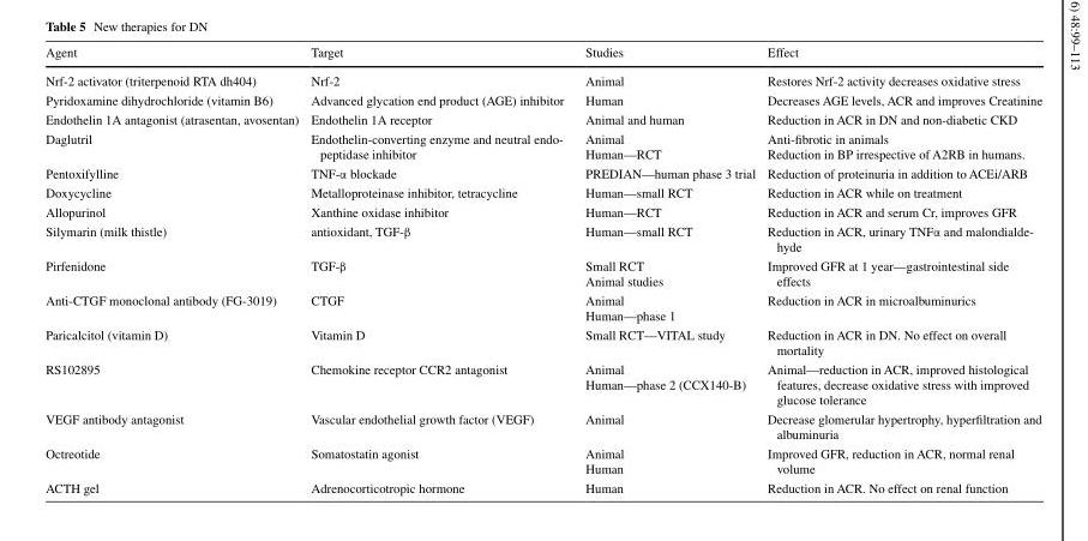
<table><thead><tr><td>Agent</td><td>Target</td><td>Studies</td><td>Effect</td></tr></thead><tbody><tr><td>Nrf-2 activator (triterpenoid RTA dh404)</td><td>Nrf-2</td><td>Animal</td><td>Restores Nrf-2 activity decreases oxidative stress</td></tr><tr><td>Pyridoxamine dihydrochloride (vitamin B6)</td><td>Advanced glycation end product (AGE) inhibitor</td><td>Human</td><td>Decreases AGE levels, ACR and improves Creatinine</td></tr><tr><td>Endothelin 1A antagonist (atrasentan, avosentan)</td><td>Endothelin 1A receptor</td><td>Animal and human</td><td>Reduction in ACR in DN and non-diabetic CKD</td></tr><tr><td>Daglutril</td><td>Endothelin-converting enzyme and neutral endo- peptidase inhibitor</td><td>Animal Human—RCT</td><td>Anti-fibrotic in animals Reduction in BP irrespective of A2RB in humans.</td></tr><tr><td>Pentoxifylline</td><td>TNF-α blockade</td><td>PREDIAN—human phase 3 trial</td><td>Reduction of proteinuria in addition to ACEi/ARB</td></tr><tr><td>Doxycycline</td><td>Metalloproteinase inhibitor, tetracycline</td><td>Human—small RCT</td><td>Reduction in ACR while on treatment</td></tr><tr><td>Allopurinol</td><td>Xanthine oxidase inhibitor</td><td>Human—RCT</td><td>Reduction in ACR and serum Cr, improves GFR</td></tr><tr><td>Silymarin (milk thistle)</td><td>antioxidant, TGF-β</td><td>Human—small RCT</td><td>Reduction in ACR, urinary TNFα and malondialde- hyde</td></tr><tr><td>Pirfenidone</td><td>TGF-β</td><td>Small RCT Animal studies</td><td>Improved GFR at 1 year—gastrointestinal side effects</td></tr><tr><td>Anti-CTGF monoclonal antibody (FG-3019)</td><td>CTGF</td><td>Animal Human—phase 1</td><td>Reduction in ACR in microalbuminurics</td></tr><tr><td>Paricalcitol (vitamin D)</td><td>Vitamin D</td><td>Small RCT—VITAL study</td><td>Reduction in ACR in DN. No effect on overall mortality</td></tr><tr><td>RS102895</td><td>Chemokine receptor CCR2 antagonist</td><td>Animal Human—phase 2 (CCX140-B)</td><td>Animal—reduction in ACR, improved histological features, decrease oxidative stress with improved glucose tolerance</td></tr><tr><td>VEGF antibody antagonist</td><td>Vascular endothelial growth factor (VEGF)</td><td>Animal</td><td>Decrease glomerular hypertrophy, hyperfiltration and albuminuria</td></tr><tr><td>Octreotide</td><td>Somatostatin agonist</td><td>Animal Human</td><td>Improved GFR, reduction in ACR, normal renal volume</td></tr><tr><td>ACTH gel</td><td>Adrenocorticotropic hormone</td><td>Human</td><td>Reduction in ACR. No effect on renal function</td></tr></tbody></table>